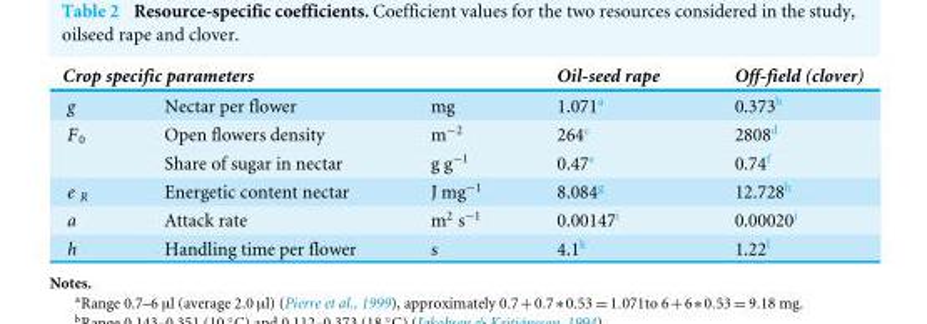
<table><thead><tr><td colspan="2">Crop specific parameters</td><td rowspan="2">mg</td><td rowspan="2">Oil-seed rape 1.071<sup>a</sup></td><td rowspan="2">Off-field (clover) 0.373<sup>b</sup></td></tr><tr><td>g</td><td>Nectar per flower</td></tr></thead><tbody><tr><td rowspan="2">F <sub>0</sub></td><td>Open flowers density</td><td>m<sup>−2</sup></td><td>264<sup>c</sup></td><td>2808<sup>d</sup></td></tr><tr><td>Share of sugar in nectar</td><td>g g<sup>−1</sup></td><td>0.47<sup>e</sup></td><td>0.74<sup>f</sup></td></tr><tr><td>e <sub>R</sub></td><td>Energetic content nectar</td><td>J mg<sup>−1</sup></td><td>8.084<sup>g</sup></td><td>12.728<sup>h</sup></td></tr><tr><td>a</td><td>Attack rate</td><td>m<sup>2</sup> s<sup>−1</sup></td><td>0.00147<sup>i</sup></td><td>0.00020<sup>j</sup></td></tr><tr><td>h</td><td>Handling time per flower</td><td>s</td><td>4.1<sup>k</sup></td><td>1.22<sup>l</sup></td></tr></tbody></table>